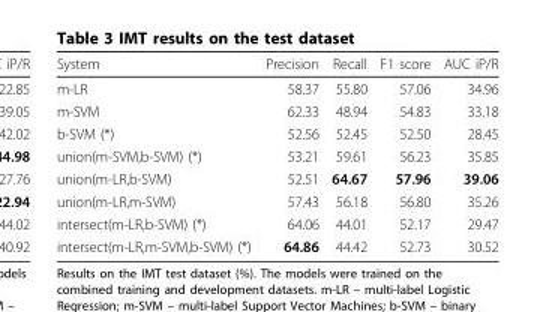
<table><thead><tr><td>System</td><td>Precision</td><td>Recall</td><td>F1 score</td><td>AUC iP/R</td></tr></thead><tbody><tr><td>m-LR</td><td>58.37</td><td>55.80</td><td>57.06</td><td>34.96</td></tr><tr><td>m-SVM</td><td>62.33</td><td>48.94</td><td>54.83</td><td>33.18</td></tr><tr><td>b-SVM (*)</td><td>52.56</td><td>52.45</td><td>52.50</td><td>28.45</td></tr><tr><td>union(m-SVM,b-SVM) (*)</td><td>53.21</td><td>59.61</td><td>56.23</td><td>35.85</td></tr><tr><td>union(m-LR,b-SVM)</td><td>52.51</td><td>64.67</td><td>57.96</td><td>39.06</td></tr><tr><td>union(m-LR,m-SVM)</td><td>57.43</td><td>56.18</td><td>56.80</td><td>35.26</td></tr><tr><td>intersect(m-LR,b-SVM) (*)</td><td>64.06</td><td>44.01</td><td>52.17</td><td>29.47</td></tr><tr><td>intersect(m-LR,m-SVM,b-SVM) (*)</td><td>64.86</td><td>44.42</td><td>52.73</td><td>30.52</td></tr></tbody></table>